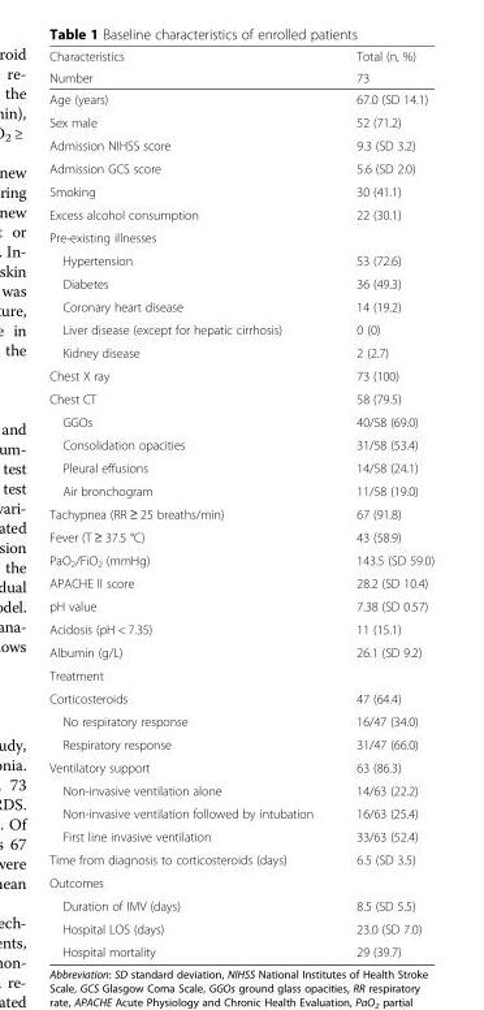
<table><thead><tr><td rowspan="2">Characteristics Number</td><td rowspan="2">Total (n, %) 73</td></tr><tr></tr></thead><tbody><tr><td>Age (years)</td><td>67.0 (SD 14.1)</td></tr><tr><td>Sex male</td><td>52 (71.2)</td></tr><tr><td>Admission NIHSS score</td><td>9.3 (SD 3.2)</td></tr><tr><td>Admission GCS score</td><td>5.6 (SD 2.0)</td></tr><tr><td>Smoking</td><td>30 (41.1)</td></tr><tr><td>Excess alcohol consumption</td><td>22 (30.1)</td></tr><tr><td colspan="2">Pre-existing illnesses</td></tr><tr><td>Hypertension</td><td>53 (72.6)</td></tr><tr><td>Diabetes</td><td>36 (49.3)</td></tr><tr><td>Coronary heart disease</td><td>14 (19.2)</td></tr><tr><td>Liver disease (except for hepatic cirrhosis)</td><td>0 (0)</td></tr><tr><td>Kidney disease</td><td>2 (2.7)</td></tr><tr><td>Chest X ray</td><td>73 (100)</td></tr><tr><td>Chest CT</td><td>58 (79.5)</td></tr><tr><td>GGOs</td><td>40/58 (69.0)</td></tr><tr><td>Consolidation opacities</td><td>31/58 (53.4)</td></tr><tr><td>Pleural effusions</td><td>14/58 (24.1)</td></tr><tr><td>Air bronchogram</td><td>11/58 (19.0)</td></tr><tr><td>Tachypnea (RR ≥ 25 breaths/min)</td><td>67 (91.8)</td></tr><tr><td>Fever (T ≥ 37.5 °C)</td><td>43 (58.9)</td></tr><tr><td>PaO<sub>2</sub>/FiO<sub>2</sub> (mmHg)</td><td>143.5 (SD 59.0)</td></tr><tr><td>APACHE II score</td><td>28.2 (SD 10.4)</td></tr><tr><td>pH value</td><td>7.38 (SD 0.57)</td></tr><tr><td>Acidosis (pH &lt; 7.35)</td><td>11 (15.1)</td></tr><tr><td>Albumin (g/L)</td><td>26.1 (SD 9.2)</td></tr><tr><td colspan="2">Treatment</td></tr><tr><td>Corticosteroids</td><td>47 (64.4)</td></tr><tr><td>No respiratory response</td><td>16/47 (34.0)</td></tr><tr><td>Respiratory response</td><td>31/47 (66.0)</td></tr><tr><td>Ventilatory support</td><td>63 (86.3)</td></tr><tr><td>Non-invasive ventilation alone</td><td>14/63 (22.2)</td></tr><tr><td>Non-invasive ventilation followed by intubation</td><td>16/63 (25.4)</td></tr><tr><td>First line invasive ventilation</td><td>33/63 (52.4)</td></tr><tr><td>Time from diagnosis to corticosteroids (days)</td><td>6.5 (SD 3.5)</td></tr><tr><td colspan="2">Outcomes</td></tr><tr><td>Duration of IMV (days)</td><td>8.5 (SD 5.5)</td></tr><tr><td>Hospital LOS (days)</td><td>23.0 (SD 7.0)</td></tr><tr><td>Hospital mortality</td><td>29 (39.7)</td></tr></tbody></table>